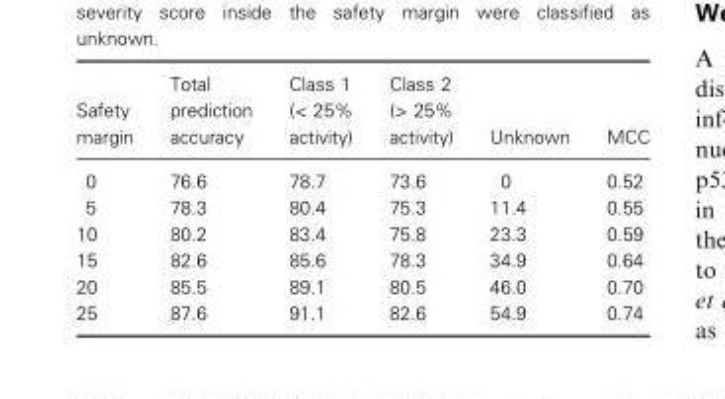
<table><thead><tr><td>Safety margin</td><td>Total prediction accuracy</td><td>Class 1 (&lt; 25% activity)</td><td>Class 2 (&gt; 25% activity)</td><td>Unknown</td><td>MCC</td></tr></thead><tbody><tr><td>0</td><td>76.6</td><td>78.7</td><td>73.6</td><td>0</td><td>0.52</td></tr><tr><td>5</td><td>78.3</td><td>80.4</td><td>75.3</td><td>11.4</td><td>0.55</td></tr><tr><td>10</td><td>80.2</td><td>83.4</td><td>75.8</td><td>23.3</td><td>0.59</td></tr><tr><td>15</td><td>82.6</td><td>85.6</td><td>78.3</td><td>34.9</td><td>0.64</td></tr><tr><td>20</td><td>85.5</td><td>89.1</td><td>80.5</td><td>46.0</td><td>0.70</td></tr><tr><td>25</td><td>87.6</td><td>91.1</td><td>82.6</td><td>54.9</td><td>0.74</td></tr></tbody></table>